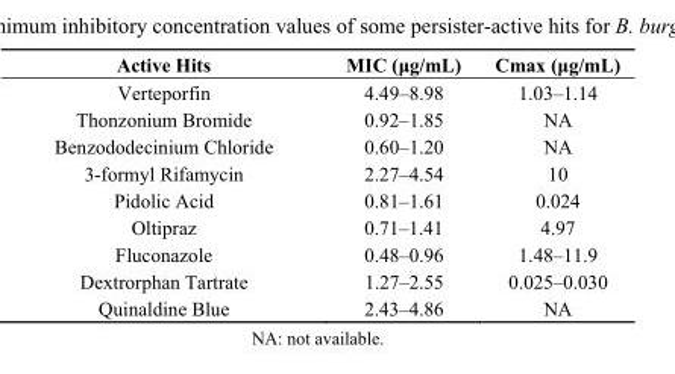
<table><thead><tr><td>Active Hits</td><td>MIC (μg/mL)</td><td>Cmax (μg/mL)</td></tr></thead><tbody><tr><td>Verteporfin</td><td>4.49–8.98</td><td>1.03–1.14</td></tr><tr><td>Thonzonium Bromide</td><td>0.92–1.85</td><td>NA</td></tr><tr><td>Benzododecinium Chloride</td><td>0.60–1.20</td><td>NA</td></tr><tr><td>3-formyl Rifamycin</td><td>2.27–4.54</td><td>10</td></tr><tr><td>Pidolic Acid</td><td>0.81–1.61</td><td>0.024</td></tr><tr><td>Oltipraz</td><td>0.71–1.41</td><td>4.97</td></tr><tr><td>Fluconazole</td><td>0.48–0.96</td><td>1.48–11.9</td></tr><tr><td>Dextrorphan Tartrate</td><td>1.27–2.55</td><td>0.025–0.030</td></tr><tr><td>Quinaldine Blue</td><td>2.43–4.86</td><td>NA</td></tr></tbody></table>